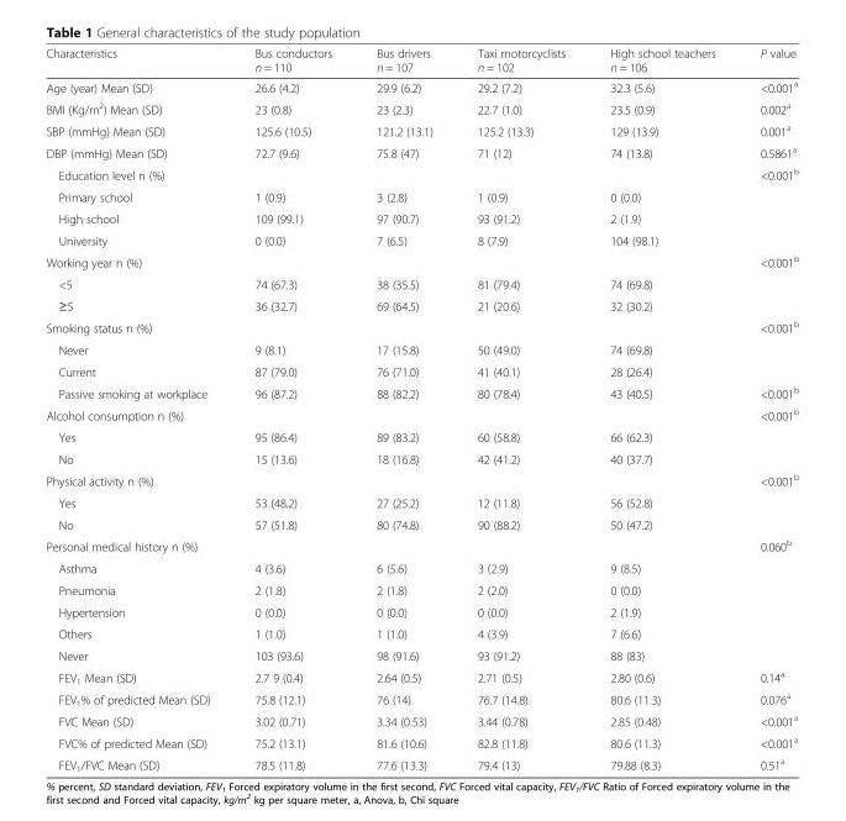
<table><thead><tr><td>Characteristics</td><td>Bus conductors n = 110</td><td>Bus drivers n = 107</td><td>Taxi motorcyclists n = 102</td><td>High school teachers n = 106</td><td>P value</td></tr></thead><tbody><tr><td>Age (year) Mean (SD)</td><td>26.6 (4.2)</td><td>29.9 (6.2)</td><td>29.2 (7.2)</td><td>32.3 (5.6)</td><td>&lt;0.001<sup>a</sup></td></tr><tr><td>BMI (Kg/m<sup>2</sup>) Mean (SD)</td><td>23 (0.8)</td><td>23 (2.3)</td><td>22.7 (1.0)</td><td>23.5 (0.9)</td><td>0.002<sup>a</sup></td></tr><tr><td>SBP (mmHg) Mean (SD)</td><td>125.6 (10.5)</td><td>121.2 (13.1)</td><td>125.2 (13.3)</td><td>129 (13.9)</td><td>0.001<sup>a</sup></td></tr><tr><td>DBP (mmHg) Mean (SD)</td><td>72.7 (9.6)</td><td>75.8 (47)</td><td>71 (12)</td><td>74 (13.8)</td><td>0.5861<sup>a</sup></td></tr><tr><td>Education level n (%)</td><td></td><td></td><td></td><td></td><td>&lt;0.001<sup>b</sup></td></tr><tr><td>Primary school</td><td>1 (0.9)</td><td>3 (2.8)</td><td>1 (0.9)</td><td>0 (0.0)</td><td rowspan="3"></td></tr><tr><td>High school</td><td>109 (99.1)</td><td>97 (90.7)</td><td>93 (91.2)</td><td>2 (1.9)</td></tr><tr><td>University</td><td>0 (0.0)</td><td>7 (6.5)</td><td>8 (7.9)</td><td>104 (98.1)</td></tr><tr><td>Working year n (%)</td><td></td><td></td><td></td><td></td><td>&lt;0.001<sup>b</sup></td></tr><tr><td>&lt;5</td><td>74 (67.3)</td><td>38 (35.5)</td><td>81 (79.4)</td><td>74 (69.8)</td><td rowspan="2"></td></tr><tr><td>≥5</td><td>36 (32.7)</td><td>69 (64.5)</td><td>21 (20.6)</td><td>32 (30.2)</td></tr><tr><td>Smoking status n (%)</td><td></td><td></td><td></td><td></td><td>&lt;0.001<sup>b</sup></td></tr><tr><td>Never</td><td>9 (8.1)</td><td>17 (15.8)</td><td>50 (49.0)</td><td>74 (69.8)</td><td></td></tr><tr><td>Current</td><td>87 (79.0)</td><td>76 (71.0)</td><td>41 (40.1)</td><td>28 (26.4)</td><td></td></tr><tr><td>Passive smoking at workplace</td><td>96 (87.2)</td><td>88 (82.2)</td><td>80 (78.4)</td><td>43 (40.5)</td><td>&lt;0.001<sup>b</sup></td></tr><tr><td>Alcohol consumption n (%)</td><td></td><td></td><td></td><td></td><td>&lt;0.001<sup>b</sup></td></tr><tr><td>Yes</td><td>95 (86.4)</td><td>89 (83.2)</td><td>60 (58.8)</td><td>66 (62.3)</td><td></td></tr><tr><td>No</td><td>15 (13.6)</td><td>18 (16.8)</td><td>42 (41.2)</td><td>40 (37.7)</td><td></td></tr><tr><td>Physical activity n (%)</td><td></td><td></td><td></td><td></td><td>&lt;0.001<sup>b</sup></td></tr><tr><td>Yes</td><td>53 (48.2)</td><td>27 (25.2)</td><td>12 (11.8)</td><td>56 (52.8)</td><td rowspan="2"></td></tr><tr><td>No</td><td>57 (51.8)</td><td>80 (74.8)</td><td>90 (88.2)</td><td>50 (47.2)</td></tr><tr><td>Personal medical history n (%)</td><td></td><td></td><td></td><td></td><td>0.060<sup>b</sup></td></tr><tr><td>Asthma</td><td>4 (3.6)</td><td>6 (5.6)</td><td>3 (2.9)</td><td>9 (8.5)</td><td></td></tr><tr><td>Pneumonia</td><td>2 (1.8)</td><td>2 (1.8)</td><td>2 (2.0)</td><td>0 (0.0)</td><td></td></tr><tr><td>Hypertension</td><td>0 (0.0)</td><td>0 (0.0)</td><td>0 (0.0)</td><td>2 (1.9)</td><td></td></tr><tr><td>Others</td><td>1 (1.0)</td><td>1 (1.0)</td><td>4 (3.9)</td><td>7 (6.6)</td><td></td></tr><tr><td>Never</td><td>103 (93.6)</td><td>98 (91.6)</td><td>93 (91.2)</td><td>88 (83)</td><td></td></tr><tr><td>FEV<sub>1</sub> Mean (SD)</td><td>2.7 9 (0.4)</td><td>2.64 (0.5)</td><td>2.71 (0.5)</td><td>2.80 (0.6)</td><td>0.14<sup>a</sup></td></tr><tr><td>FEV<sub>1</sub>% of predicted Mean (SD)</td><td>75.8 (12.1)</td><td>76 (14)</td><td>76.7 (14.8)</td><td>80.6 (11.3)</td><td>0.076<sup>a</sup></td></tr><tr><td>FVC Mean (SD)</td><td>3.02 (0.71)</td><td>3.34 (0.53)</td><td>3.44 (0.78)</td><td>2.85 (0.48)</td><td>&lt;0.001<sup>a</sup></td></tr><tr><td>FVC% of predicted Mean (SD)</td><td>75.2 (13.1)</td><td>81.6 (10.6)</td><td>82.8 (11.8)</td><td>80.6 (11.3)</td><td>&lt;0.001<sup>a</sup></td></tr><tr><td>FEV<sub>1</sub>/FVC Mean (SD)</td><td>78.5 (11.8)</td><td>77.6 (13.3)</td><td>79.4 (13)</td><td>79.88 (8.3)</td><td>0.51<sup>a</sup></td></tr></tbody></table>